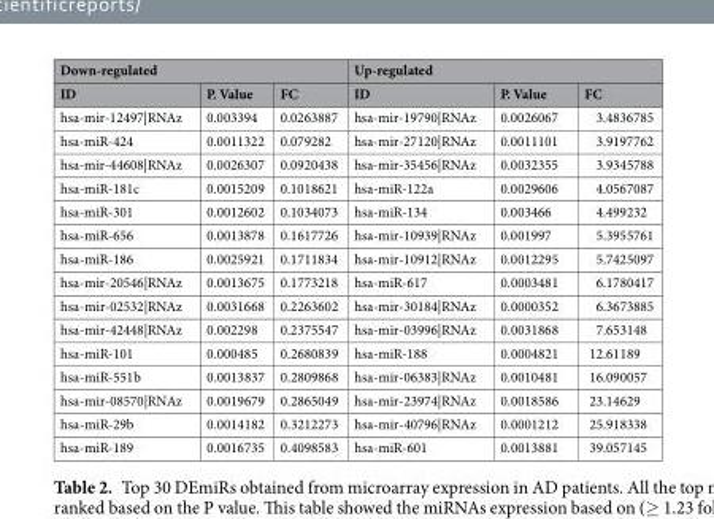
<table><thead><tr><td colspan="3">Down-regulated</td><td colspan="3">Up-regulated</td></tr><tr><td>ID</td><td>P. Value</td><td>FC</td><td>ID</td><td>P. Value</td><td>FC</td></tr></thead><tbody><tr><td>hsa-mir-12497|RNAz</td><td>0.003394</td><td>0.0263887</td><td>hsa-mir-19790|RNAz</td><td>0.0026067</td><td>3.4836785</td></tr><tr><td>hsa-miR-424</td><td>0.0011322</td><td>0.079282</td><td>hsa-mir-27120|RNAz</td><td>0.0011101</td><td>3.9197762</td></tr><tr><td>hsa-mir-44608|RNAz</td><td>0.0026307</td><td>0.0920438</td><td>hsa-mir-35456|RNAz</td><td>0.0032355</td><td>3.9345788</td></tr><tr><td>hsa-miR-181c</td><td>0.0015209</td><td>0.1018621</td><td>hsa-miR-122a</td><td>0.0029606</td><td>4.0567087</td></tr><tr><td>hsa-miR-301</td><td>0.0012602</td><td>0.1034073</td><td>hsa-miR-134</td><td>0.003466</td><td>4.499232</td></tr><tr><td>hsa-miR-656</td><td>0.0013878</td><td>0.1617726</td><td>hsa-mir-10939|RNAz</td><td>0.001997</td><td>5.3955761</td></tr><tr><td>hsa-miR-186</td><td>0.0025921</td><td>0.1711834</td><td>hsa-mir-10912|RNAz</td><td>0.0012295</td><td>5.7425097</td></tr><tr><td>hsa-mir-20546|RNAz</td><td>0.0013675</td><td>0.1773218</td><td>hsa-miR-617</td><td>0.0003481</td><td>6.1780417</td></tr><tr><td>hsa-mir-02532|RNAz</td><td>0.0031668</td><td>0.2263602</td><td>hsa-mir-30184|RNAz</td><td>0.0000352</td><td>6.3673885</td></tr><tr><td>hsa-mir-42448|RNAz</td><td>0.002298</td><td>0.2375547</td><td>hsa-mir-03996|RNAz</td><td>0.0031868</td><td>7.653148</td></tr><tr><td>hsa-miR-101</td><td>0.000485</td><td>0.2680839</td><td>hsa-miR-188</td><td>0.0004821</td><td>12.61189</td></tr><tr><td>hsa-miR-551b</td><td>0.0013837</td><td>0.2809868</td><td>hsa-mir-06383|RNAz</td><td>0.0010481</td><td>16.090057</td></tr><tr><td>hsa-mir-08570|RNAz</td><td>0.0019679</td><td>0.2865049</td><td>hsa-mir-23974|RNAz</td><td>0.0018586</td><td>23.14629</td></tr><tr><td>hsa-miR-29b</td><td>0.0014182</td><td>0.3212273</td><td>hsa-mir-40796|RNAz</td><td>0.0001212</td><td>25.918338</td></tr><tr><td>hsa-miR-189</td><td>0.0016735</td><td>0.4098583</td><td>hsa-miR-601</td><td>0.0013881</td><td>39.057145</td></tr></tbody></table>